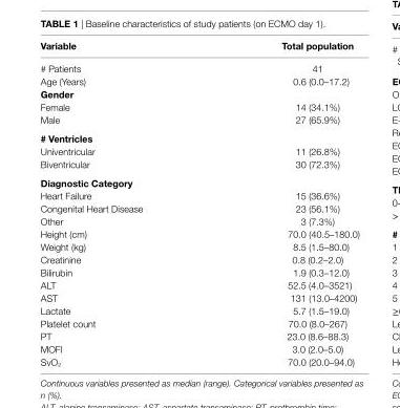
<table><thead><tr><td>Variable</td><td>Total population</td></tr></thead><tbody><tr><td># Patients</td><td>41</td></tr><tr><td>Age (Years)</td><td>0.6 (0.0–17.2)</td></tr><tr><td colspan="2">gender</td></tr><tr><td>Female</td><td>14 (34.1%)</td></tr><tr><td>Male</td><td>27 (65.9%)</td></tr><tr><td colspan="2"># Ventricles</td></tr><tr><td>Univentricular</td><td>11 (26.8%)</td></tr><tr><td>Biventricular</td><td>30 (72.3%)</td></tr><tr><td colspan="2">Diagnostic category</td></tr><tr><td>Heart Failure</td><td>15 (36.6%)</td></tr><tr><td>Congenital Heart Disease</td><td>23 (56.1%)</td></tr><tr><td>Other</td><td>3 (7.3%)</td></tr><tr><td>Height (cm)</td><td>70.0 (40.5–180.0)</td></tr><tr><td>Weight (kg)</td><td>8.5 (1.5–80.0)</td></tr><tr><td>Creatinine</td><td>0.8 (0.2–2.0)</td></tr><tr><td>Bilirubin</td><td>1.9 (0.3–12.0)</td></tr><tr><td>ALT</td><td>52.5 (4.0–3521)</td></tr><tr><td>AST</td><td>131 (13.0–4200)</td></tr><tr><td>Lactate</td><td>5.7 (1.5–19.0)</td></tr><tr><td>Platelet count</td><td>70.0 (8.0–267)</td></tr><tr><td>PT</td><td>23.0 (8.6–88.3)</td></tr><tr><td>MOFI</td><td>3.0 (2.0–5.0)</td></tr><tr><td>SvO<sub>2</sub></td><td>70.0 (20.0–94.0)</td></tr></tbody></table>